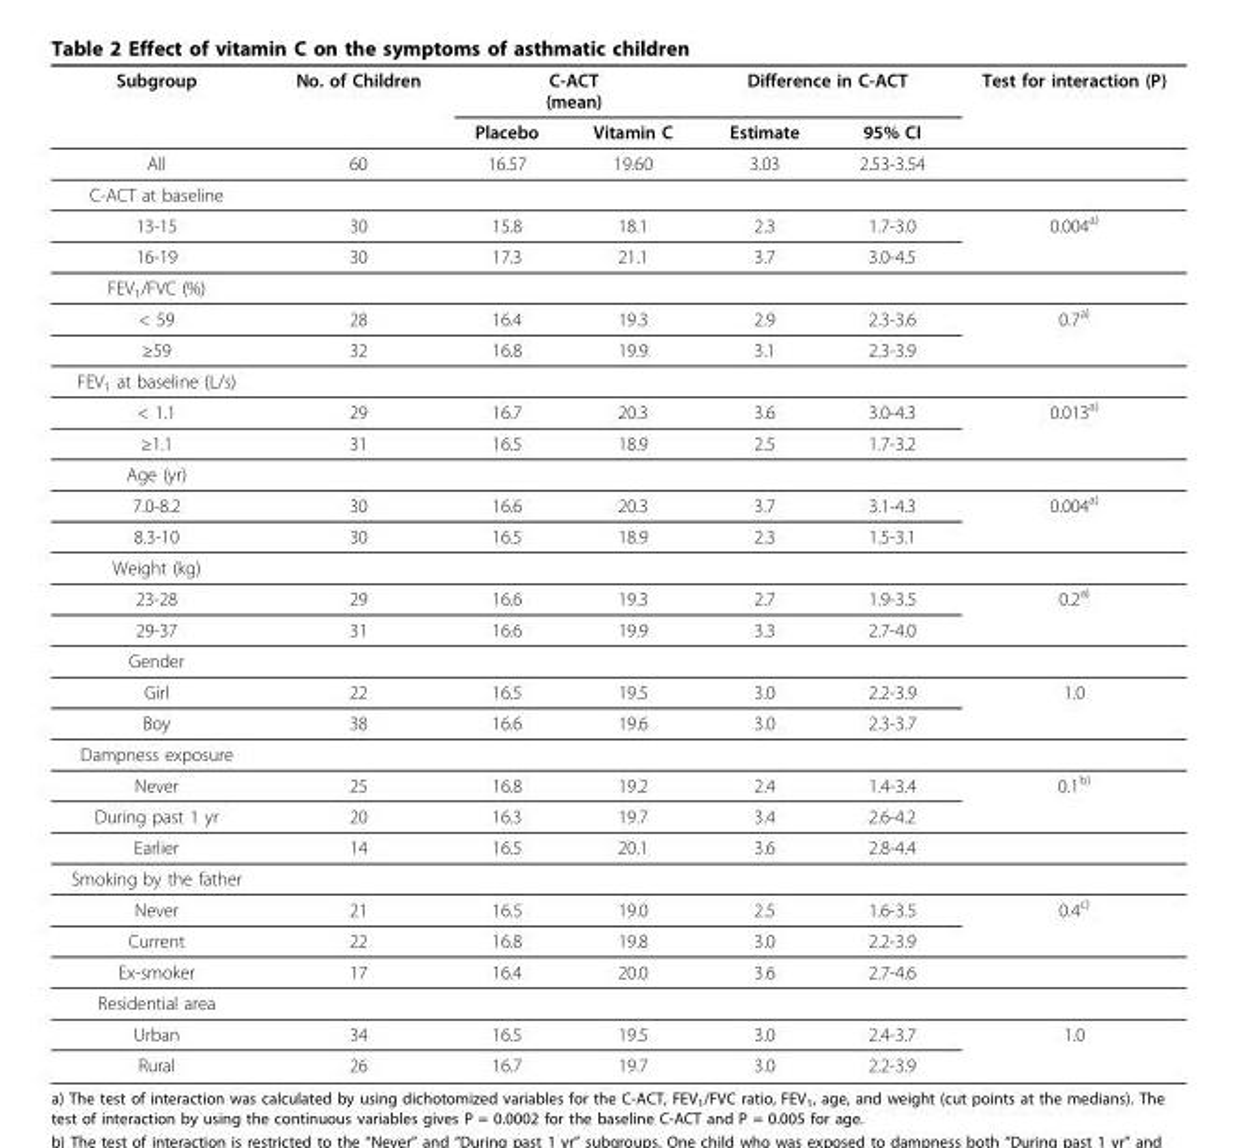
<table><thead><tr><td rowspan="2">Subgroup</td><td rowspan="2">No. of Children</td><td colspan="2">C-ACT (mean)</td><td colspan="2">Difference in C-ACT</td><td rowspan="2">Test for interaction (P)</td></tr><tr><td>Placebo</td><td>Vitamin C</td><td>Estimate</td><td>95% CI</td></tr></thead><tbody><tr><td>All</td><td>60</td><td>16.57</td><td>19.60</td><td>3.03</td><td>2.53-3.54</td><td></td></tr><tr><td colspan="7">C-ACT at baseline</td></tr><tr><td>13-15</td><td>30</td><td>15.8</td><td>18.1</td><td>2.3</td><td>1.7-3.0</td><td>0.004a)</td></tr><tr><td>16-19</td><td>30</td><td>17.3</td><td>21.1</td><td>3.7</td><td>3.0-4.5</td><td></td></tr><tr><td colspan="7">FEV1/FVC (%)</td></tr><tr><td>&lt; 59</td><td>28</td><td>16.4</td><td>19.3</td><td>2.9</td><td>2.3-3.6</td><td>0.7a)</td></tr><tr><td>≥59</td><td>32</td><td>16.8</td><td>19.9</td><td>3.1</td><td>2.3-3.9</td><td></td></tr><tr><td colspan="7">FEV1 at baseline (L/s)</td></tr><tr><td>&lt; 1.1</td><td>29</td><td>16.7</td><td>20.3</td><td>3.6</td><td>3.0-4.3</td><td>0.013a)</td></tr><tr><td>≥1.1</td><td>31</td><td>16.5</td><td>18.9</td><td>2.5</td><td>1.7-3.2</td><td></td></tr><tr><td colspan="7">Age (yr)</td></tr><tr><td>7.0-8.2</td><td>30</td><td>16.6</td><td>20.3</td><td>3.7</td><td>3.1-4.3</td><td>0.004a)</td></tr><tr><td>8.3-10</td><td>30</td><td>16.5</td><td>18.9</td><td>2.3</td><td>1.5-3.1</td><td></td></tr><tr><td colspan="7">Weight (kg)</td></tr><tr><td>23-28</td><td>29</td><td>16.6</td><td>19.3</td><td>2.7</td><td>1.9-3.5</td><td>0.2a)</td></tr><tr><td>29-37</td><td>31</td><td>16.6</td><td>19.9</td><td>3.3</td><td>2.7-4.0</td><td></td></tr><tr><td colspan="7">Gender</td></tr><tr><td>Girl</td><td>22</td><td>16.5</td><td>19.5</td><td>3.0</td><td>2.2-3.9</td><td>1.0</td></tr><tr><td>Boy</td><td>38</td><td>16.6</td><td>19.6</td><td>3.0</td><td>2.3-3.7</td><td></td></tr><tr><td colspan="7">Dampness exposure</td></tr><tr><td>Never</td><td>25</td><td>16.8</td><td>19.2</td><td>2.4</td><td>1.4-3.4</td><td>0.1b)</td></tr><tr><td>During past 1 yr</td><td>20</td><td>16.3</td><td>19.7</td><td>3.4</td><td>2.6-4.2</td><td></td></tr><tr><td>Earlier</td><td>14</td><td>16.5</td><td>20.1</td><td>3.6</td><td>2.8-4.4</td><td></td></tr><tr><td colspan="7">Smoking by the father</td></tr><tr><td>Never</td><td>21</td><td>16.5</td><td>19.0</td><td>2.5</td><td>1.6-3.5</td><td>0.4c)</td></tr><tr><td>Current</td><td>22</td><td>16.8</td><td>19.8</td><td>3.0</td><td>2.2-3.9</td><td></td></tr><tr><td>Ex-smoker</td><td>17</td><td>16.4</td><td>20.0</td><td>3.6</td><td>2.7-4.6</td><td></td></tr><tr><td colspan="7">Residential area</td></tr><tr><td>Urban</td><td>34</td><td>16.5</td><td>19.5</td><td>3.0</td><td>2.4-3.7</td><td>1.0</td></tr><tr><td>Rural</td><td>26</td><td>16.7</td><td>19.7</td><td>3.0</td><td>2.2-3.9</td><td></td></tr></tbody></table>